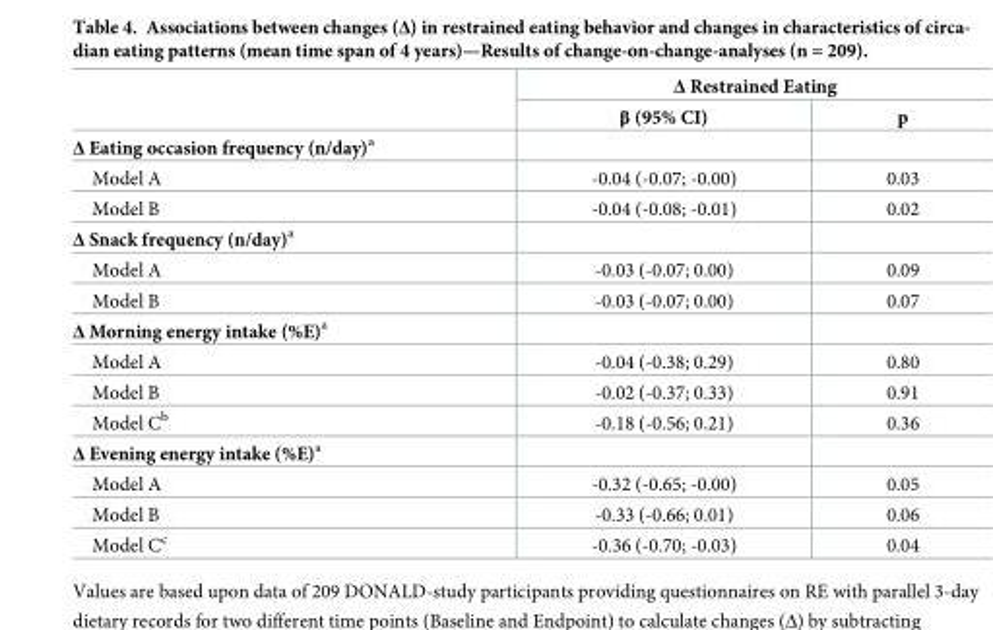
<table><thead><tr><td rowspan="2"></td><td colspan="2">Δ Restrained Eating</td></tr><tr><td>β (95% CI)</td><td>p</td></tr></thead><tbody><tr><td colspan="3">Δ Eating occasion frequency (n/day)<sup>a</sup></td></tr><tr><td>Model A</td><td>-0.04 (-0.07; -0.00)</td><td>0.03</td></tr><tr><td>Model B</td><td>-0.04 (-0.08; -0.01)</td><td>0.02</td></tr><tr><td colspan="3">Δ Snack frequency (n/day)<sup>a</sup></td></tr><tr><td>Model A</td><td>-0.03 (-0.07; 0.00)</td><td>0.09</td></tr><tr><td>Model B</td><td>-0.03 (-0.07; 0.00)</td><td>0.07</td></tr><tr><td colspan="3">Δ Morning energy intake (%E)<sup>a</sup></td></tr><tr><td>Model A</td><td>-0.04 (-0.38; 0.29)</td><td>0.80</td></tr><tr><td>Model B</td><td>-0.02 (-0.37; 0.33)</td><td>0.91</td></tr><tr><td>Model C<sup>b</sup></td><td>-0.18 (-0.56; 0.21)</td><td>0.36</td></tr><tr><td colspan="3">Δ Evening energy intake (%E)<sup>a</sup></td></tr><tr><td>Model A</td><td>-0.32 (-0.65; -0.00)</td><td>0.05</td></tr><tr><td>Model B</td><td>-0.33 (-0.66; 0.01)</td><td>0.06</td></tr><tr><td>Model C<sup>c</sup></td><td>-0.36 (-0.70; -0.03)</td><td>0.04</td></tr></tbody></table>